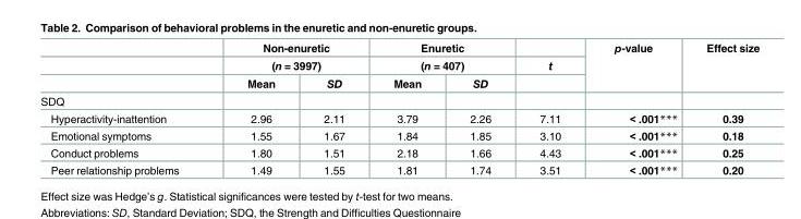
<table><thead><tr><td rowspan="3"></td><td rowspan="2" colspan="2">Non-enuretic (n = 3997)</td><td rowspan="2" colspan="2">Enuretic (n = 407)</td><td rowspan="3">t</td><td rowspan="3">p-value</td><td rowspan="3">Effect size</td></tr><tr></tr><tr><td>Mean</td><td>SD</td><td>Mean</td><td>SD</td></tr></thead><tbody><tr><td colspan="8">SDQ</td></tr><tr><td>Hyperactivity-inattention</td><td>2.96</td><td>2.11</td><td>3.79</td><td>2.26</td><td>7.11</td><td>&lt; .001***</td><td>0.39</td></tr><tr><td>Emotional symptoms</td><td>1.55</td><td>1.67</td><td>1.84</td><td>1.85</td><td>3.10</td><td>&lt; .001***</td><td>0.18</td></tr><tr><td>Conduct problems</td><td>1.80</td><td>1.51</td><td>2.18</td><td>1.66</td><td>4.43</td><td>&lt; .001***</td><td>0.25</td></tr><tr><td>Peer relationship problems</td><td>1.49</td><td>1.55</td><td>1.81</td><td>1.74</td><td>3.51</td><td>&lt; .001***</td><td>0.20</td></tr></tbody></table>